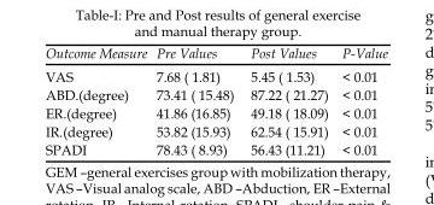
<table><thead><tr><td>Outcome Measure</td><td>Pre Values</td><td>Post Values</td><td>P-Value</td></tr></thead><tbody><tr><td>VAS</td><td>7.68 ( 1.81)</td><td>5.45 ( 1.53)</td><td>&lt; 0.01</td></tr><tr><td>ABD.(degree)</td><td>73.41 ( 15.48)</td><td>87.22 ( 21.27)</td><td>&lt; 0.01</td></tr><tr><td>ER.(degree)</td><td>41.86 (16.85)</td><td>49.18 ( 18.09)</td><td>&lt; 0.01</td></tr><tr><td>IR.(degree)</td><td>53.82 (15.93)</td><td>62.54 ( 15.91)</td><td>&lt; 0.01</td></tr><tr><td>SPADI</td><td>78.43 ( 8.93)</td><td>56.43 (11.21)</td><td>&lt; 0.01</td></tr></tbody></table>